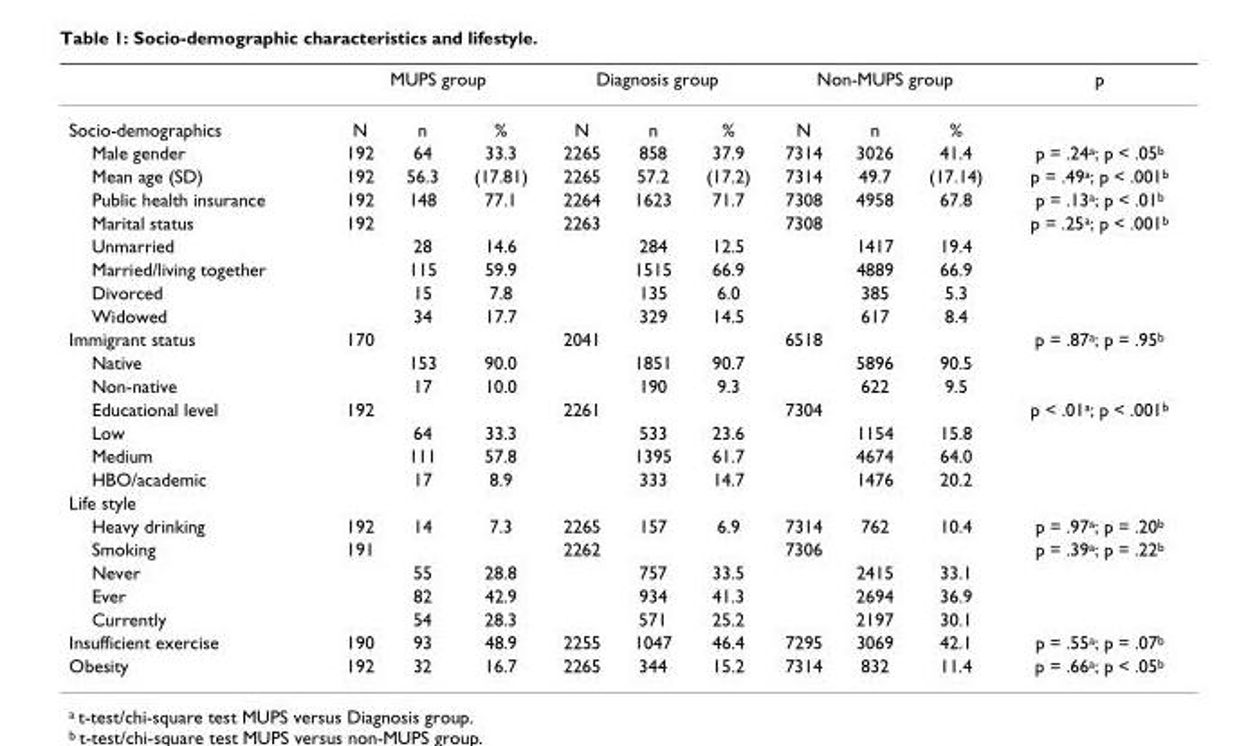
<table><thead><tr><td rowspan="2">Socio-demographics</td><td colspan="3">MUPS group</td><td colspan="3">Diagnosis group</td><td colspan="3">Non-MUPS group</td><td rowspan="2">p</td></tr><tr><td>N</td><td>n</td><td>%</td><td>N</td><td>n</td><td>%</td><td>N</td><td>n</td><td>%</td></tr></thead><tbody><tr><td>Male gender</td><td>192</td><td>64</td><td>33.3</td><td>2265</td><td>858</td><td>37.9</td><td>7314</td><td>3026</td><td>41.4</td><td>p = .24<sup>a</sup>; p &lt; .05<sup>b</sup></td></tr><tr><td>Mean age (SD)</td><td>192</td><td>56.3</td><td>(17.81)</td><td>2265</td><td>57.2</td><td>(17.2)</td><td>7314</td><td>49.7</td><td>(17.14)</td><td>p = .49<sup>a</sup>; p &lt; .001<sup>b</sup></td></tr><tr><td>Public health insurance</td><td>192</td><td>148</td><td>77.1</td><td>2264</td><td>1623</td><td>71.7</td><td>7308</td><td>4958</td><td>67.8</td><td>p = .13<sup>a</sup>; p &lt; .01<sup>b</sup></td></tr><tr><td>Marital status</td><td>192</td><td></td><td></td><td>2263</td><td></td><td></td><td>7308</td><td></td><td></td><td>p = .25<sup>a</sup>; p &lt; .001<sup>b</sup></td></tr><tr><td>Unmarried</td><td></td><td>28</td><td>14.6</td><td></td><td>284</td><td>12.5</td><td></td><td>1417</td><td>19.4</td><td></td></tr><tr><td>Married/living together</td><td></td><td>115</td><td>59.9</td><td></td><td>1515</td><td>66.9</td><td></td><td>4889</td><td>66.9</td><td></td></tr><tr><td>Divorced</td><td></td><td>15</td><td>7.8</td><td></td><td>135</td><td>6.0</td><td></td><td>385</td><td>5.3</td><td></td></tr><tr><td>Widowed</td><td></td><td>34</td><td>17.7</td><td></td><td>329</td><td>14.5</td><td></td><td>617</td><td>8.4</td><td></td></tr><tr><td>Immigrant status</td><td>170</td><td></td><td></td><td>2041</td><td></td><td></td><td>6518</td><td></td><td></td><td>p = .87<sup>a</sup>; p = .95<sup>b</sup></td></tr><tr><td>Native</td><td></td><td>153</td><td>90.0</td><td></td><td>1851</td><td>90.7</td><td></td><td>5896</td><td>90.5</td><td></td></tr><tr><td>Non-native</td><td></td><td>17</td><td>10.0</td><td></td><td>190</td><td>9.3</td><td></td><td>622</td><td>9.5</td><td></td></tr><tr><td>Educational level</td><td>192</td><td></td><td></td><td>2261</td><td></td><td></td><td>7304</td><td></td><td></td><td>p &lt; .01<sup>a</sup>; p &lt; .001<sup>b</sup></td></tr><tr><td>Low</td><td></td><td>64</td><td>33.3</td><td></td><td>533</td><td>23.6</td><td></td><td>1154</td><td>15.8</td><td></td></tr><tr><td>Medium</td><td></td><td>111</td><td>57.8</td><td></td><td>1395</td><td>61.7</td><td></td><td>4674</td><td>64.0</td><td></td></tr><tr><td>HBO/academic</td><td></td><td>17</td><td>8.9</td><td></td><td>333</td><td>14.7</td><td></td><td>1476</td><td>20.2</td><td></td></tr><tr><td colspan="11">Life style</td></tr><tr><td>Heavy drinking</td><td>192</td><td>14</td><td>7.3</td><td>2265</td><td>157</td><td>6.9</td><td>7314</td><td>762</td><td>10.4</td><td>p = .97<sup>a</sup>; p = .20<sup>b</sup></td></tr><tr><td>Smoking</td><td>191</td><td></td><td></td><td>2262</td><td></td><td></td><td>7306</td><td></td><td></td><td>p = .39<sup>a</sup>; p = .22<sup>b</sup></td></tr><tr><td>Never</td><td></td><td>55</td><td>28.8</td><td></td><td>757</td><td>33.5</td><td></td><td>2415</td><td>33.1</td><td></td></tr><tr><td>Ever</td><td></td><td>82</td><td>42.9</td><td></td><td>934</td><td>41.3</td><td></td><td>2694</td><td>36.9</td><td></td></tr><tr><td>Currently</td><td></td><td>54</td><td>28.3</td><td></td><td>571</td><td>25.2</td><td></td><td>2197</td><td>30.1</td><td></td></tr><tr><td>Insufficient exercise</td><td>190</td><td>93</td><td>48.9</td><td>2255</td><td>1047</td><td>46.4</td><td>7295</td><td>3069</td><td>42.1</td><td>p = .55<sup>a</sup>; p = .07<sup>b</sup></td></tr><tr><td>Obesity</td><td>192</td><td>32</td><td>16.7</td><td>2265</td><td>344</td><td>15.2</td><td>7314</td><td>832</td><td>11.4</td><td>p = .66<sup>a</sup>; p &lt; .05<sup>b</sup></td></tr></tbody></table>